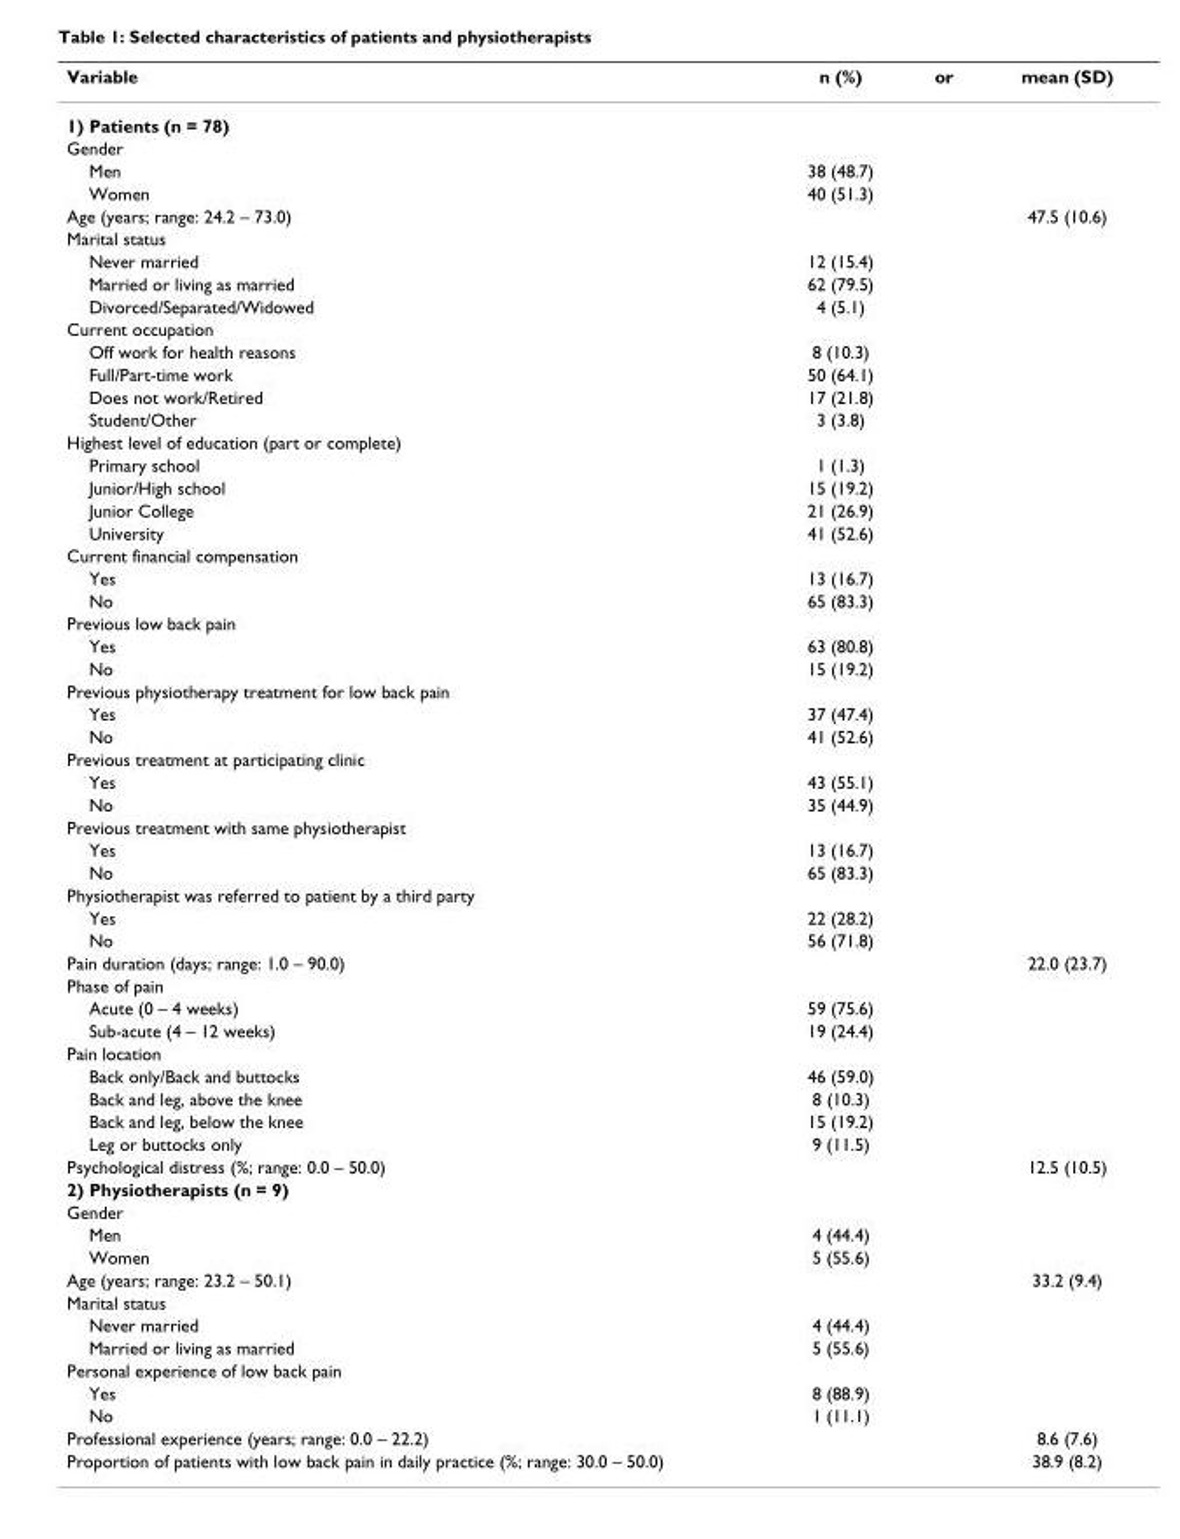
<table><thead><tr><td>Variable</td><td>n (%)</td><td>or</td><td>mean (SD)</td></tr></thead><tbody><tr><td colspan="4">1) Patients (n = 78)</td></tr><tr><td colspan="4">Gender</td></tr><tr><td>Men</td><td>38 (48.7)</td><td></td><td></td></tr><tr><td>Women</td><td>40 (51.3)</td><td></td><td></td></tr><tr><td>Age (years; range: 24.2 – 73.0)</td><td></td><td></td><td>47.5 (10.6)</td></tr><tr><td colspan="4">Marital status</td></tr><tr><td>Never married</td><td>12 (15.4)</td><td></td><td></td></tr><tr><td>Married or living as married</td><td>62 (79.5)</td><td></td><td></td></tr><tr><td>Divorced/Separated/Widowed</td><td>4 (5.1)</td><td></td><td></td></tr><tr><td colspan="4">Current occupation</td></tr><tr><td>Off work for health reasons</td><td>8 (10.3)</td><td></td><td></td></tr><tr><td>Full/Part-time work</td><td>50 (64.1)</td><td></td><td></td></tr><tr><td>Does not work/Retired</td><td>17 (21.8)</td><td></td><td></td></tr><tr><td>Student/Other</td><td>3 (3.8)</td><td></td><td></td></tr><tr><td colspan="4">Highest level of education (part or complete)</td></tr><tr><td>Primary school</td><td>1 (1.3)</td><td></td><td></td></tr><tr><td>Junior/High school</td><td>15 (19.2)</td><td></td><td></td></tr><tr><td>Junior College</td><td>21 (26.9)</td><td></td><td></td></tr><tr><td>University</td><td>41 (52.6)</td><td></td><td></td></tr><tr><td colspan="4">Current financial compensation</td></tr><tr><td>Yes</td><td>13 (16.7)</td><td></td><td></td></tr><tr><td>No</td><td>65 (83.3)</td><td></td><td></td></tr><tr><td colspan="4">Previous low back pain</td></tr><tr><td>Yes</td><td>63 (80.8)</td><td></td><td></td></tr><tr><td>No</td><td>15 (19.2)</td><td></td><td></td></tr><tr><td colspan="4">Previous physiotherapy treatment for low back pain</td></tr><tr><td>Yes</td><td>37 (47.4)</td><td></td><td></td></tr><tr><td>No</td><td>41 (52.6)</td><td></td><td></td></tr><tr><td colspan="4">Previous treatment at participating clinic</td></tr><tr><td>Yes</td><td>43 (55.1)</td><td></td><td></td></tr><tr><td>No</td><td>35 (44.9)</td><td></td><td></td></tr><tr><td colspan="4">Previous treatment with same physiotherapist</td></tr><tr><td>Yes</td><td>13 (16.7)</td><td></td><td></td></tr><tr><td>No</td><td>65 (83.3)</td><td></td><td></td></tr><tr><td colspan="4">Physiotherapist was referred to patient by a third party</td></tr><tr><td>Yes</td><td>22 (28.2)</td><td></td><td></td></tr><tr><td>No</td><td>56 (71.8)</td><td></td><td></td></tr><tr><td>Pain duration (days; range: 1.0 – 90.0)</td><td></td><td></td><td>22.0 (23.7)</td></tr><tr><td colspan="4">Phase of pain</td></tr><tr><td>Acute (0 – 4 weeks)</td><td>59 (75.6)</td><td></td><td></td></tr><tr><td>Sub-acute (4 – 12 weeks)</td><td>19 (24.4)</td><td></td><td></td></tr><tr><td colspan="4">Pain location</td></tr><tr><td>Back only/Back and buttocks</td><td>46 (59.0)</td><td></td><td></td></tr><tr><td>Back and leg, above the knee</td><td>8 (10.3)</td><td></td><td></td></tr><tr><td>Back and leg, below the knee</td><td>15 (19.2)</td><td></td><td></td></tr><tr><td>Leg or buttocks only</td><td>9 (11.5)</td><td></td><td></td></tr><tr><td>Psychological distress (%; range: 0.0 – 50.0)</td><td></td><td></td><td>12.5 (10.5)</td></tr><tr><td colspan="4">2) Physiotherapists (n = 9)</td></tr><tr><td colspan="4">Gender</td></tr><tr><td>Men</td><td>4 (44.4)</td><td></td><td></td></tr><tr><td>Women</td><td>5 (55.6)</td><td></td><td></td></tr><tr><td>Age (years; range: 23.2 – 50.1)</td><td></td><td></td><td>33.2 (9.4)</td></tr><tr><td colspan="4">Marital status</td></tr><tr><td>Never married</td><td>4 (44.4)</td><td></td><td></td></tr><tr><td>Married or living as married</td><td>5 (55.6)</td><td></td><td></td></tr><tr><td colspan="4">Personal experience of low back pain</td></tr><tr><td>Yes</td><td>8 (88.9)</td><td></td><td></td></tr><tr><td>No</td><td>1 (11.1)</td><td></td><td></td></tr><tr><td>Professional experience (years; range: 0.0 – 22.2)</td><td></td><td></td><td>8.6 (7.6)</td></tr><tr><td>Proportion of patients with low back pain in daily practice (%; range: 30.0 – 50.0)</td><td></td><td></td><td>38.9 (8.2)</td></tr></tbody></table>